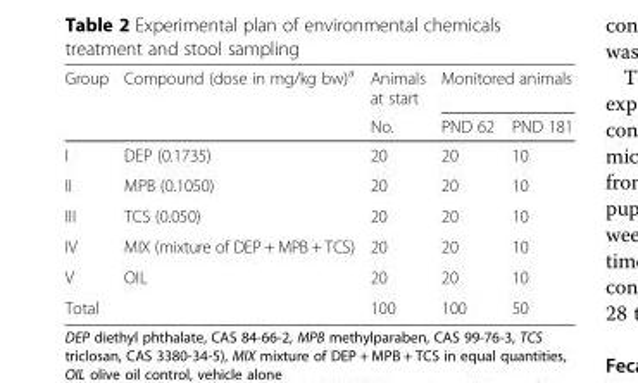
<table><thead><tr><td rowspan="2">Group</td><td rowspan="2">Compound (dose in mg/kg bw)<sup>a</sup></td><td rowspan="2">Animals at start No.</td><td colspan="2">Monitored animals</td></tr><tr><td>PND 62</td><td>PND 181</td></tr></thead><tbody><tr><td>I</td><td>DEP (0.1735)</td><td>20</td><td>20</td><td>10</td></tr><tr><td>II</td><td>MPB (0.1050)</td><td>20</td><td>20</td><td>10</td></tr><tr><td>III</td><td>TCS (0.050)</td><td>20</td><td>20</td><td>10</td></tr><tr><td>IV</td><td>MIX (mixture of DEP + MPB + TCS)</td><td>20</td><td>20</td><td>10</td></tr><tr><td>V</td><td>OIL</td><td>20</td><td>20</td><td>10</td></tr><tr><td>Total</td><td></td><td>100</td><td>100</td><td>50</td></tr></tbody></table>